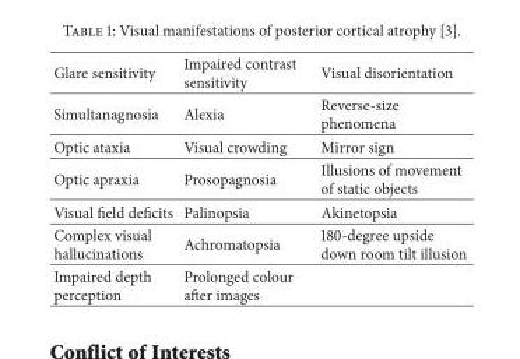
<table><thead><tr><td>Glare sensitivity</td><td>Impaired contrast sensitivity</td><td>Visual disorientation</td></tr></thead><tbody><tr><td>Simultanagnosia</td><td>Alexia</td><td>Reverse-size phenomena</td></tr><tr><td>Optic ataxia</td><td>Visual crowding</td><td>Mirror sign</td></tr><tr><td>Optic apraxia</td><td>Prosopagnosia</td><td>Illusions of movement of static objects</td></tr><tr><td>Visual field deficits</td><td>Palinopsia</td><td>Akinetopsia</td></tr><tr><td>Complex visual hallucinations</td><td>Achromatopsia</td><td>180-degree upside down room tilt illusion</td></tr><tr><td>Impaired depth perception</td><td>Prolonged colour after images</td><td></td></tr></tbody></table>